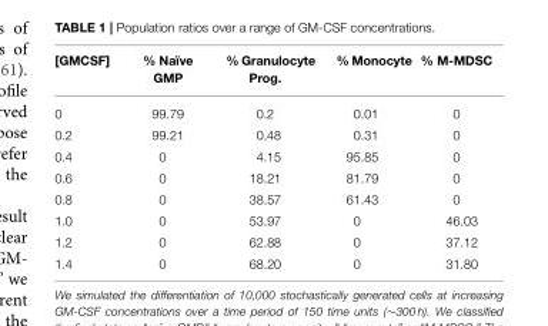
<table><thead><tr><td>[GMCSF]</td><td>% Naïve GMP</td><td>% Granulocyte Prog.</td><td>% Monocyte</td><td>% M-MDSC</td></tr></thead><tbody><tr><td>0</td><td>99.79</td><td>0.2</td><td>0.01</td><td>0</td></tr><tr><td>0.2</td><td>99.21</td><td>0.48</td><td>0.31</td><td>0</td></tr><tr><td>0.4</td><td>0</td><td>4.15</td><td>95.85</td><td>0</td></tr><tr><td>0.6</td><td>0</td><td>18.21</td><td>81.79</td><td>0</td></tr><tr><td>0.8</td><td>0</td><td>38.57</td><td>61.43</td><td>0</td></tr><tr><td>1.0</td><td>0</td><td>53.97</td><td>0</td><td>46.03</td></tr><tr><td>1.2</td><td>0</td><td>62.88</td><td>0</td><td>37.12</td></tr><tr><td>1.4</td><td>0</td><td>68.20</td><td>0</td><td>31.80</td></tr></tbody></table>